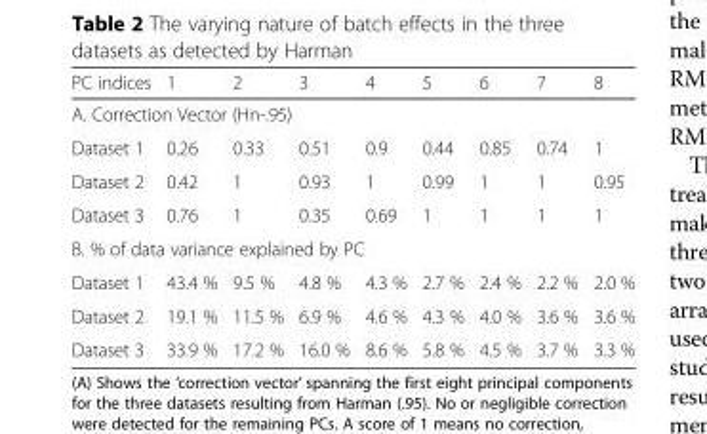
<table><thead><tr><td>PC indices</td><td>1</td><td>2</td><td>3</td><td>4</td><td>5</td><td>6</td><td>7</td><td>8</td></tr></thead><tbody><tr><td colspan="9">A. Correction Vector (Hn-.95)</td></tr><tr><td>Dataset 1</td><td>0.26</td><td>0.33</td><td>0.51</td><td>0.9</td><td>0.44</td><td>0.85</td><td>0.74</td><td>1</td></tr><tr><td>Dataset 2</td><td>0.42</td><td>1</td><td>0.93</td><td>1</td><td>0.99</td><td>1</td><td>1</td><td>0.95</td></tr><tr><td>Dataset 3</td><td>0.76</td><td>1</td><td>0.35</td><td>0.69</td><td>1</td><td>1</td><td>1</td><td>1</td></tr><tr><td colspan="9">B. % of data variance explained by PC</td></tr><tr><td>Dataset 1</td><td>43.4 %</td><td>9.5 %</td><td>4.8 %</td><td>4.3 %</td><td>2.7 %</td><td>2.4 %</td><td>2.2 %</td><td>2.0 %</td></tr><tr><td>Dataset 2</td><td>19.1 %</td><td>11.5 %</td><td>6.9 %</td><td>4.6 %</td><td>4.3 %</td><td>4.0 %</td><td>3.6 %</td><td>3.6 %</td></tr><tr><td>Dataset 3</td><td>33.9 %</td><td>17.2 %</td><td>16.0 %</td><td>8.6 %</td><td>5.8 %</td><td>4.5 %</td><td>3.7 %</td><td>3.3 %</td></tr></tbody></table>